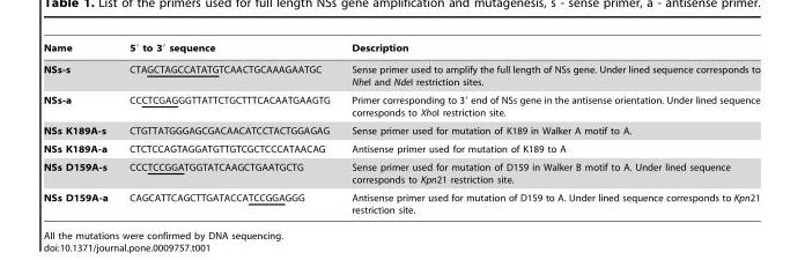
<table><thead><tr><td>Name</td><td>5′ to 3′ sequence</td><td>Description</td></tr></thead><tbody><tr><td>NSs-s</td><td>CTAGCTAGCCATATGTCAACTGCAAAGAATGC</td><td>Sense primer used to amplify the full length of NSs gene. Under lined sequence corresponds to NheI and NdeI restriction sites.</td></tr><tr><td>NSs-a</td><td>CCCTCGAGGGTTATTCTGCTTTCACAATGAAGTG</td><td>Primer corresponding to 3′ end of NSs gene in the antisense orientation. Under lined sequence corresponds to XhoI restriction site.</td></tr><tr><td>NSs K189A-s</td><td>CTGTTATGGGAGCGACAACATCCTACTGGAGAG</td><td>Sense primer used for mutation of K189 in Walker A motif to A.</td></tr><tr><td>NSs K189A-a</td><td>CTCTCCAGTAGGATGTTGTCGCTCCCATAACAG</td><td>Antisense primer used for mutation of K189 to A</td></tr><tr><td>NSs D159A-s</td><td>CCCTCCGGATGGTATCAAGCTGAATGCTG</td><td>Sense primer used for mutation of D159 in Walker B motif to A. Under lined sequence corresponds to Kpn21 restriction site.</td></tr><tr><td>NSs D159A-a</td><td>CAGCATTCAGCTTGATACCATCCGGAGGG</td><td>Antisense primer used for mutation of D159 to A. Under lined sequence corresponds to Kpn21 restriction site.</td></tr></tbody></table>